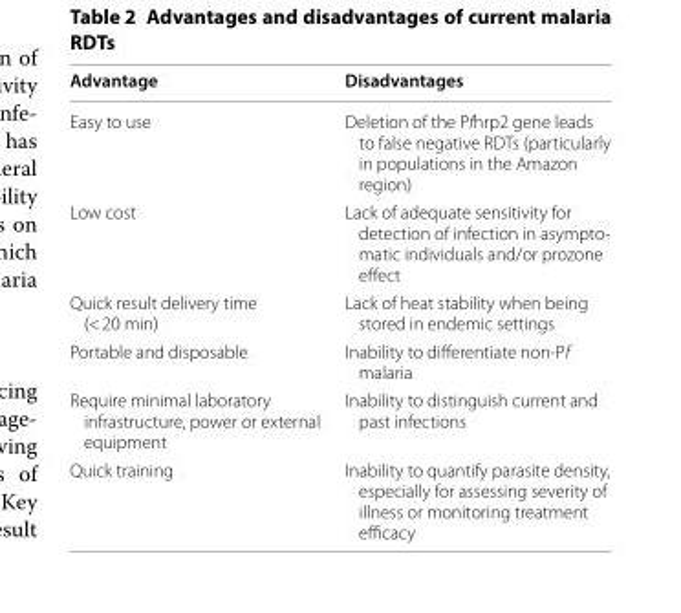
<table><thead><tr><td>Advantage</td><td>Disadvantages</td></tr></thead><tbody><tr><td>Easy to use</td><td>Deletion of the Pfhrp2 gene leads to false negative RDTs (particularly in populations in the Amazon region)</td></tr><tr><td>Low cost</td><td>Lack of adequate sensitivity for detection of infection in asympto‑ matic individuals and/or prozone effect</td></tr><tr><td>Quick result delivery time (&lt; 20 min)</td><td>Lack of heat stability when being stored in endemic settings</td></tr><tr><td>Portable and disposable</td><td>Inability to differentiate non‑Pf malaria</td></tr><tr><td>Require minimal laboratory infrastructure, power or external equipment</td><td>Inability to distinguish current and past infections</td></tr><tr><td>Quick training</td><td>Inability to quantify parasite density, especially for assessing severity of illness or monitoring treatment efficacy</td></tr></tbody></table>